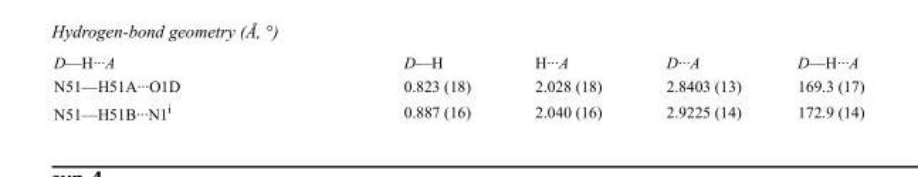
<table><tbody><tr><td>D—H···A</td><td>D—H</td><td>H···A</td><td>D···A</td><td>D—H···A</td></tr><tr><td>N51—H51A···O1D</td><td>0.823 (18)</td><td>2.028 (18)</td><td>2.8403 (13)</td><td>169.3 (17)</td></tr><tr><td>N51—H51B···N1<sup>i</sup></td><td>0.887 (16)</td><td>2.040 (16)</td><td>2.9225 (14)</td><td>172.9 (14)</td></tr></tbody></table>